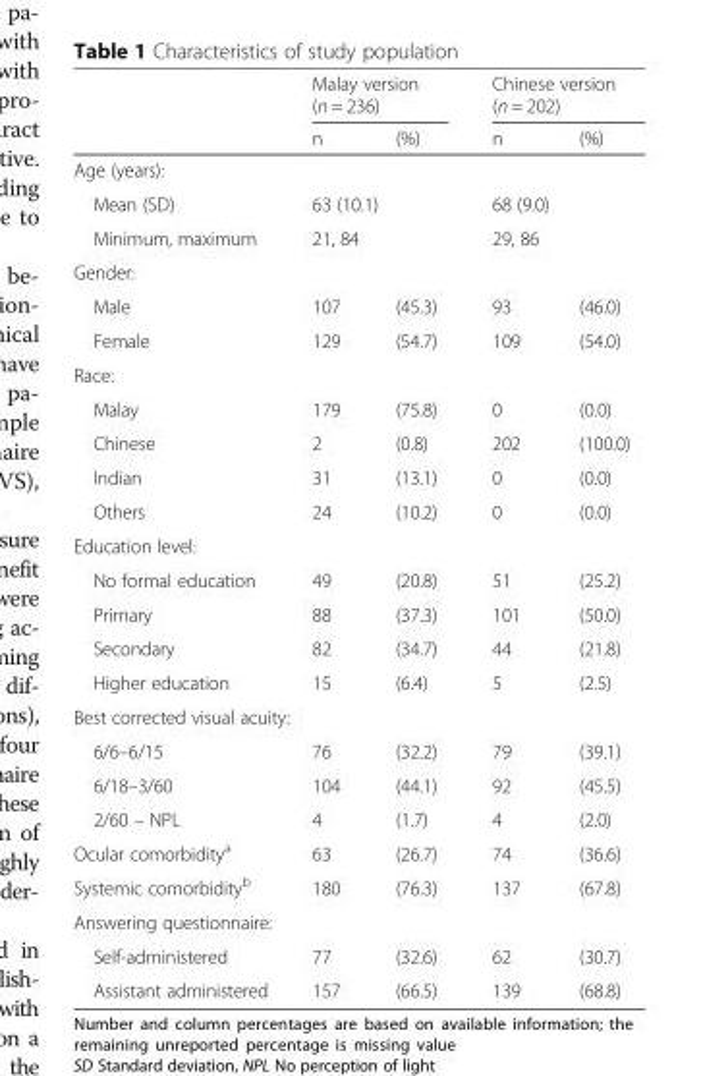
<table><thead><tr><td rowspan="2"></td><td colspan="2">Malay version (n = 236)</td><td colspan="2">Chinese version (n = 202)</td></tr><tr><td>n</td><td>(%)</td><td>n</td><td>(%)</td></tr></thead><tbody><tr><td colspan="5">Age (years):</td></tr><tr><td>Mean (SD)</td><td colspan="2">63 (10.1)</td><td colspan="2">68 (9.0)</td></tr><tr><td>Minimum, maximum</td><td colspan="2">21, 84</td><td colspan="2">29, 86</td></tr><tr><td colspan="5">Gender:</td></tr><tr><td>Male</td><td>107</td><td>(45.3)</td><td>93</td><td>(46.0)</td></tr><tr><td>Female</td><td>129</td><td>(54.7)</td><td>109</td><td>(54.0)</td></tr><tr><td colspan="5">Race:</td></tr><tr><td>Malay</td><td>179</td><td>(75.8)</td><td>0</td><td>(0.0)</td></tr><tr><td>Chinese</td><td>2</td><td>(0.8)</td><td>202</td><td>(100.0)</td></tr><tr><td>Indian</td><td>31</td><td>(13.1)</td><td>0</td><td>(0.0)</td></tr><tr><td>Others</td><td>24</td><td>(10.2)</td><td>0</td><td>(0.0)</td></tr><tr><td colspan="5">Education level:</td></tr><tr><td>No formal education</td><td>49</td><td>(20.8)</td><td>51</td><td>(25.2)</td></tr><tr><td>Primary</td><td>88</td><td>(37.3)</td><td>101</td><td>(50.0)</td></tr><tr><td>Secondary</td><td>82</td><td>(34.7)</td><td>44</td><td>(21.8)</td></tr><tr><td>Higher education</td><td>15</td><td>(6.4)</td><td>5</td><td>(2.5)</td></tr><tr><td colspan="5">Best corrected visual acuity:</td></tr><tr><td>6/6–6/15</td><td>76</td><td>(32.2)</td><td>79</td><td>(39.1)</td></tr><tr><td>6/18–3/60</td><td>104</td><td>(44.1)</td><td>92</td><td>(45.5)</td></tr><tr><td>2/60 – NPL</td><td>4</td><td>(1.7)</td><td>4</td><td>(2.0)</td></tr><tr><td>Ocular comorbidity<sup>a</sup></td><td>63</td><td>(26.7)</td><td>74</td><td>(36.6)</td></tr><tr><td>Systemic comorbidity<sup>b</sup></td><td>180</td><td>(76.3)</td><td>137</td><td>(67.8)</td></tr><tr><td colspan="5">Answering questionnaire:</td></tr><tr><td>Self-administered</td><td>77</td><td>(32.6)</td><td>62</td><td>(30.7)</td></tr><tr><td>Assistant administered</td><td>157</td><td>(66.5)</td><td>139</td><td>(68.8)</td></tr></tbody></table>